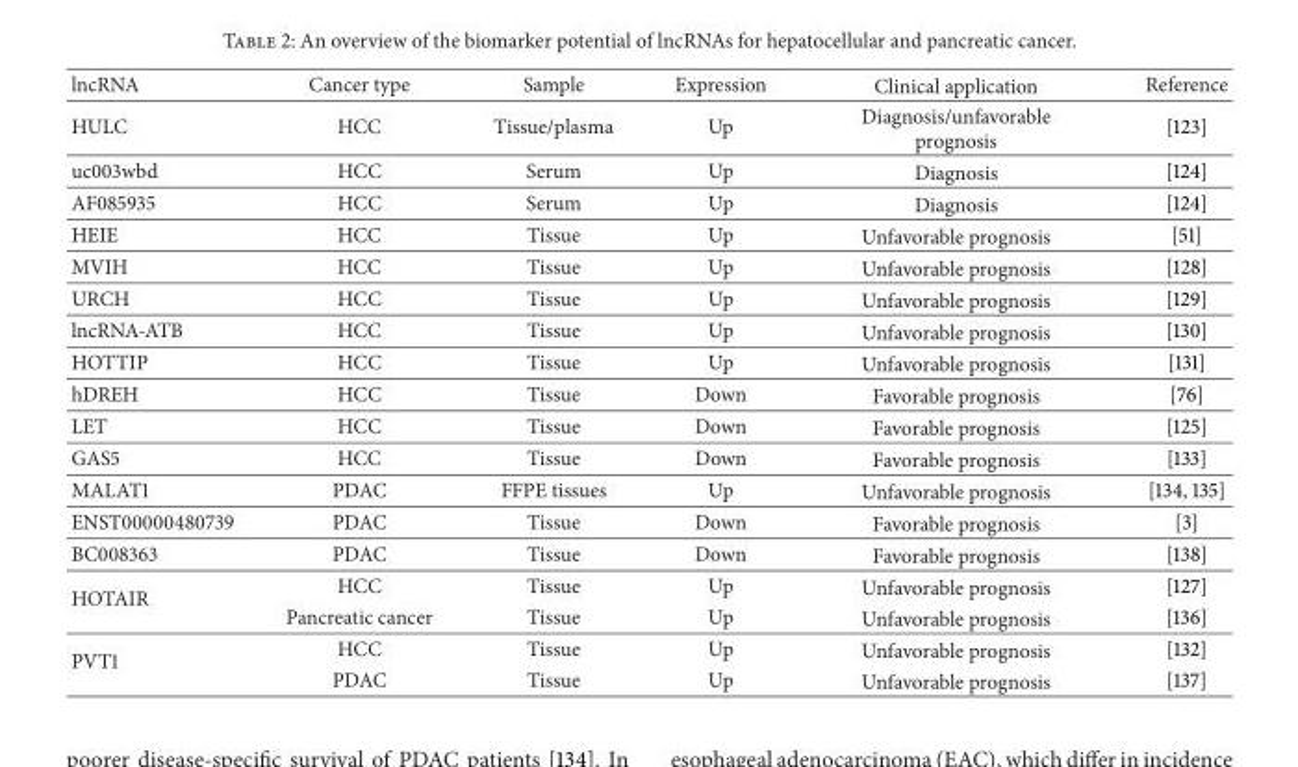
<table><thead><tr><td>lncRNA</td><td>Cancer type</td><td>Sample</td><td>Expression</td><td>Clinical application</td><td>Reference</td></tr></thead><tbody><tr><td>HULC</td><td>HCC</td><td>Tissue/plasma</td><td>Up</td><td>Diagnosis/unfavorable prognosis</td><td>[123]</td></tr><tr><td>uc003wbd</td><td>HCC</td><td>Serum</td><td>Up</td><td>Diagnosis</td><td>[124]</td></tr><tr><td>AF085935</td><td>HCC</td><td>Serum</td><td>Up</td><td>Diagnosis</td><td>[124]</td></tr><tr><td>HEIE</td><td>HCC</td><td>Tissue</td><td>Up</td><td>Unfavorable prognosis</td><td>[51]</td></tr><tr><td>MVIH</td><td>HCC</td><td>Tissue</td><td>Up</td><td>Unfavorable prognosis</td><td>[128]</td></tr><tr><td>URCH</td><td>HCC</td><td>Tissue</td><td>Up</td><td>Unfavorable prognosis</td><td>[129]</td></tr><tr><td>lncRNA-ATB</td><td>HCC</td><td>Tissue</td><td>Up</td><td>Unfavorable prognosis</td><td>[130]</td></tr><tr><td>HOTTIP</td><td>HCC</td><td>Tissue</td><td>Up</td><td>Unfavorable prognosis</td><td>[131]</td></tr><tr><td>hDREH</td><td>HCC</td><td>Tissue</td><td>Down</td><td>Favorable prognosis</td><td>[76]</td></tr><tr><td>LET</td><td>HCC</td><td>Tissue</td><td>Down</td><td>Favorable prognosis</td><td>[125]</td></tr><tr><td>GAS5</td><td>HCC</td><td>Tissue</td><td>Down</td><td>Favorable prognosis</td><td>[133]</td></tr><tr><td>MALAT1</td><td>PDAC</td><td>FFPE tissues</td><td>Up</td><td>Unfavorable prognosis</td><td>[134, 135]</td></tr><tr><td>ENST00000480739</td><td>PDAC</td><td>Tissue</td><td>Down</td><td>Favorable prognosis</td><td>[3]</td></tr><tr><td>BC008363</td><td>PDAC</td><td>Tissue</td><td>Down</td><td>Favorable prognosis</td><td>[138]</td></tr><tr><td rowspan="2">HOTAIR</td><td>HCC</td><td>Tissue</td><td>Up</td><td>Unfavorable prognosis</td><td>[127]</td></tr><tr><td>Pancreatic cancer</td><td>Tissue</td><td>Up</td><td>Unfavorable prognosis</td><td>[136]</td></tr><tr><td rowspan="2">PVT1</td><td>HCC</td><td>Tissue</td><td>Up</td><td>Unfavorable prognosis</td><td>[132]</td></tr><tr><td>PDAC</td><td>Tissue</td><td>Up</td><td>Unfavorable prognosis</td><td>[137]</td></tr></tbody></table>